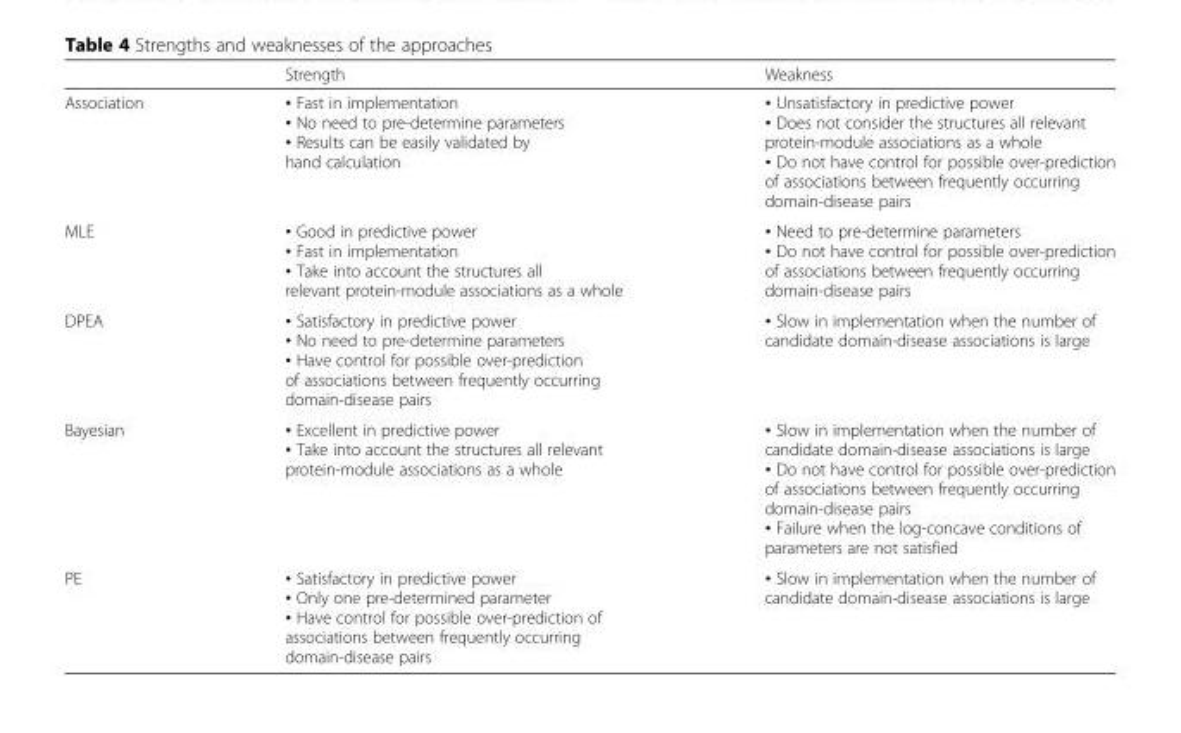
<table><thead><tr><td></td><td>Strength</td><td>Weakness</td></tr></thead><tbody><tr><td>Association</td><td>• Fast in implementation • No need to pre-determine parameters • Results can be easily validated by hand calculation</td><td>• Unsatisfactory in predictive power • Does not consider the structures all relevant protein-module associations as a whole • Do not have control for possible over-prediction of associations between frequently occurring domain-disease pairs</td></tr><tr><td>MLE</td><td>• Good in predictive power • Fast in implementation • Take into account the structures all relevant protein-module associations as a whole</td><td>• Need to pre-determine parameters • Do not have control for possible over-prediction of associations between frequently occurring domain-disease pairs</td></tr><tr><td>DPEA</td><td>• Satisfactory in predictive power • No need to pre-determine parameters • Have control for possible over-prediction of associations between frequently occurring domain-disease pairs</td><td>• Slow in implementation when the number of candidate domain-disease associations is large</td></tr><tr><td>Bayesian</td><td>• Excellent in predictive power • Take into account the structures all relevant protein-module associations as a whole</td><td>• Slow in implementation when the number of candidate domain-disease associations is large • Do not have control for possible over-prediction of associations between frequently occurring domain-disease pairs • Failure when the log-concave conditions of parameters are not satisfied</td></tr><tr><td>PE</td><td>• Satisfactory in predictive power • Only one pre-determined parameter • Have control for possible over-prediction of associations between frequently occurring domain-disease pairs</td><td>• Slow in implementation when the number of candidate domain-disease associations is large</td></tr></tbody></table>